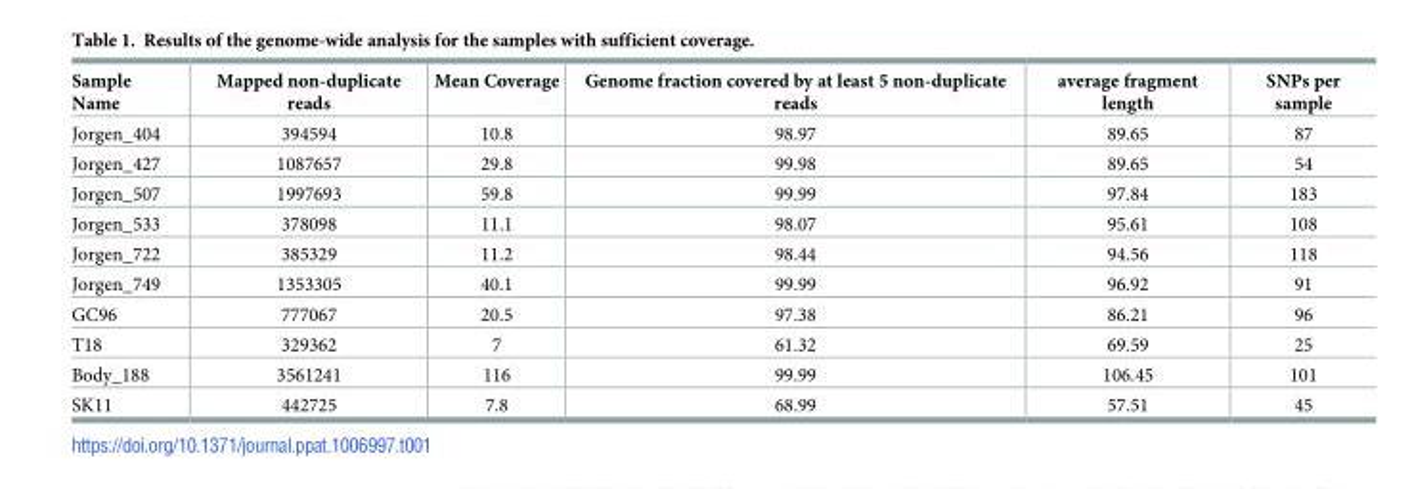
<table><thead><tr><td>Sample Name</td><td>Mapped non-duplicate reads</td><td>Mean Coverage</td><td>Genome fraction covered by at least 5 non-duplicate reads</td><td>average fragment length</td><td>SNPs per sample</td></tr></thead><tbody><tr><td>Jorgen_404</td><td>394594</td><td>10.8</td><td>98.97</td><td>89.65</td><td>87</td></tr><tr><td>Jorgen_427</td><td>1087657</td><td>29.8</td><td>99.98</td><td>89.65</td><td>54</td></tr><tr><td>Jorgen_507</td><td>1997693</td><td>59.8</td><td>99.99</td><td>97.84</td><td>183</td></tr><tr><td>Jorgen_533</td><td>378098</td><td>11.1</td><td>98.07</td><td>95.61</td><td>108</td></tr><tr><td>Jorgen_722</td><td>385329</td><td>11.2</td><td>98.44</td><td>94.56</td><td>118</td></tr><tr><td>Jorgen_749</td><td>1353305</td><td>40.1</td><td>99.99</td><td>96.92</td><td>91</td></tr><tr><td>GC96</td><td>777067</td><td>20.5</td><td>97.38</td><td>86.21</td><td>96</td></tr><tr><td>T18</td><td>329362</td><td>7</td><td>61.32</td><td>69.59</td><td>25</td></tr><tr><td>Body_188</td><td>3561241</td><td>116</td><td>99.99</td><td>106.45</td><td>101</td></tr><tr><td>SK11</td><td>442725</td><td>7.8</td><td>68.99</td><td>57.51</td><td>45</td></tr></tbody></table>